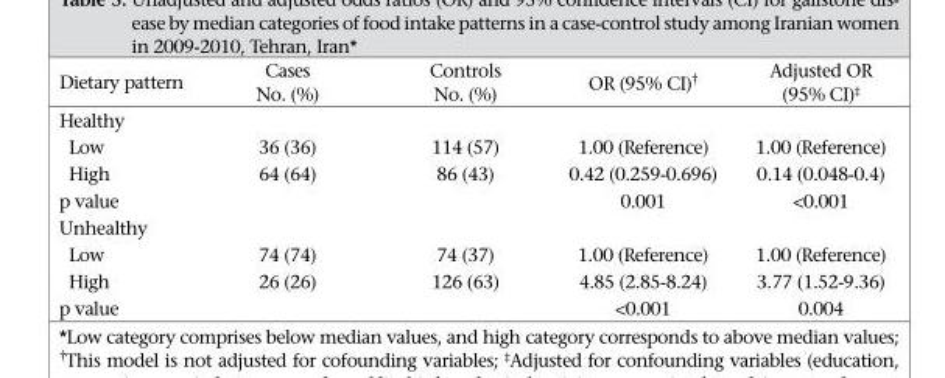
<table><thead><tr><td>Dietary pattern</td><td>Cases No. (%)</td><td>Controls No. (%)</td><td>OR (95% CI)†</td><td>Adjusted OR (95% CI)‡</td></tr></thead><tbody><tr><td colspan="5">Healthy</td></tr><tr><td>Low</td><td>36 (36)</td><td>114 (57)</td><td>1.00 (Reference)</td><td>1.00 (Reference)</td></tr><tr><td>High</td><td>64 (64)</td><td>86 (43)</td><td>0.42 (0.259-0.696)</td><td>0.14 (0.048-0.4)</td></tr><tr><td>p value</td><td></td><td></td><td>0.001</td><td>&lt;0.001</td></tr><tr><td colspan="5">Unhealthy</td></tr><tr><td>Low</td><td>74 (74)</td><td>74 (37)</td><td>1.00 (Reference)</td><td>1.00 (Reference)</td></tr><tr><td>High</td><td>26 (26)</td><td>126 (63)</td><td>4.85 (2.85-8.24)</td><td>3.77 (1.52-9.36)</td></tr><tr><td>p value</td><td></td><td></td><td>&lt;0.001</td><td>0.004</td></tr></tbody></table>